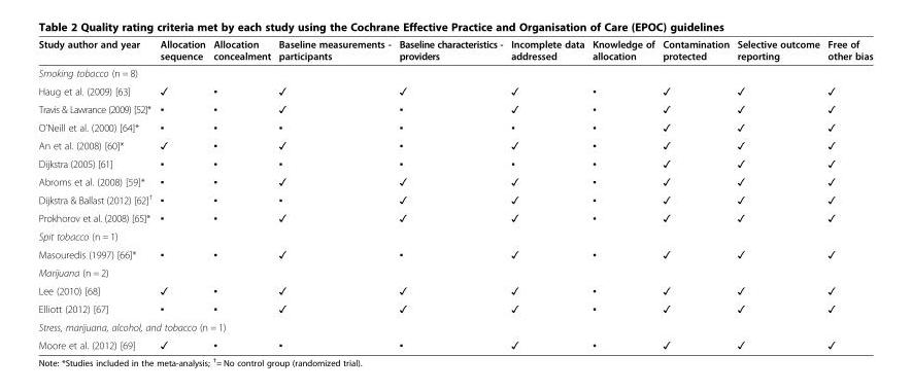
<table><thead><tr><td>Study author and year</td><td>Allocation sequence</td><td>Allocation concealment</td><td>Baseline measurements - participants</td><td>Baseline characteristics - providers</td><td>Incomplete data addressed</td><td>Knowledge of allocation</td><td>Contamination protected</td><td>Selective outcome reporting</td><td>Free of other bias</td></tr></thead><tbody><tr><td colspan="10">Smoking tobacco (n = 8)</td></tr><tr><td>Haug et al. (2009) [63]</td><td>✓</td><td>▪</td><td>✓</td><td>✓</td><td>✓</td><td>▪</td><td>✓</td><td>✓</td><td>✓</td></tr><tr><td>Travis &amp; Lawrance (2009) [52]*</td><td>▪</td><td>▪</td><td>✓</td><td>▪</td><td>✓</td><td>▪</td><td>✓</td><td>✓</td><td>✓</td></tr><tr><td>O’Neill et al. (2000) [64]*</td><td>▪</td><td>▪</td><td>▪</td><td>▪</td><td>▪</td><td>▪</td><td>✓</td><td>✓</td><td>✓</td></tr><tr><td>An et al. (2008) [60]*</td><td>✓</td><td>▪</td><td>✓</td><td>▪</td><td>✓</td><td>▪</td><td>✓</td><td>✓</td><td>✓</td></tr><tr><td>Dijkstra (2005) [61]</td><td>▪</td><td>▪</td><td>▪</td><td>▪</td><td>▪</td><td>▪</td><td>✓</td><td>✓</td><td>✓</td></tr><tr><td>Abroms et al. (2008) [59]*</td><td>▪</td><td>▪</td><td>✓</td><td>✓</td><td>✓</td><td>▪</td><td>✓</td><td>✓</td><td>✓</td></tr><tr><td>Dijkstra &amp; Ballast (2012) [62]<sup>†</sup></td><td>▪</td><td>▪</td><td>▪</td><td>✓</td><td>✓</td><td>▪</td><td>✓</td><td>✓</td><td>✓</td></tr><tr><td>Prokhorov et al. (2008) [65]*</td><td>▪</td><td>▪</td><td>✓</td><td>✓</td><td>✓</td><td>▪</td><td>✓</td><td>✓</td><td>✓</td></tr><tr><td colspan="10">Spit tobacco (n = 1)</td></tr><tr><td>Masouredis (1997) [66]*</td><td>▪</td><td>▪</td><td>✓</td><td>▪</td><td>✓</td><td>▪</td><td>✓</td><td>✓</td><td>✓</td></tr><tr><td colspan="10">Marijuana (n = 2)</td></tr><tr><td>Lee (2010) [68]</td><td>✓</td><td>▪</td><td>✓</td><td>✓</td><td>✓</td><td>▪</td><td>✓</td><td>✓</td><td>✓</td></tr><tr><td>Elliott (2012) [67]</td><td>▪</td><td>▪</td><td>✓</td><td>✓</td><td>✓</td><td>▪</td><td>✓</td><td>✓</td><td>✓</td></tr><tr><td colspan="10">Stress, marijuana, alcohol, and tobacco (n = 1)</td></tr><tr><td>Moore et al. (2012) [69]</td><td>✓</td><td>▪</td><td>▪</td><td>▪</td><td>✓</td><td>▪</td><td>✓</td><td>✓</td><td>✓</td></tr></tbody></table>